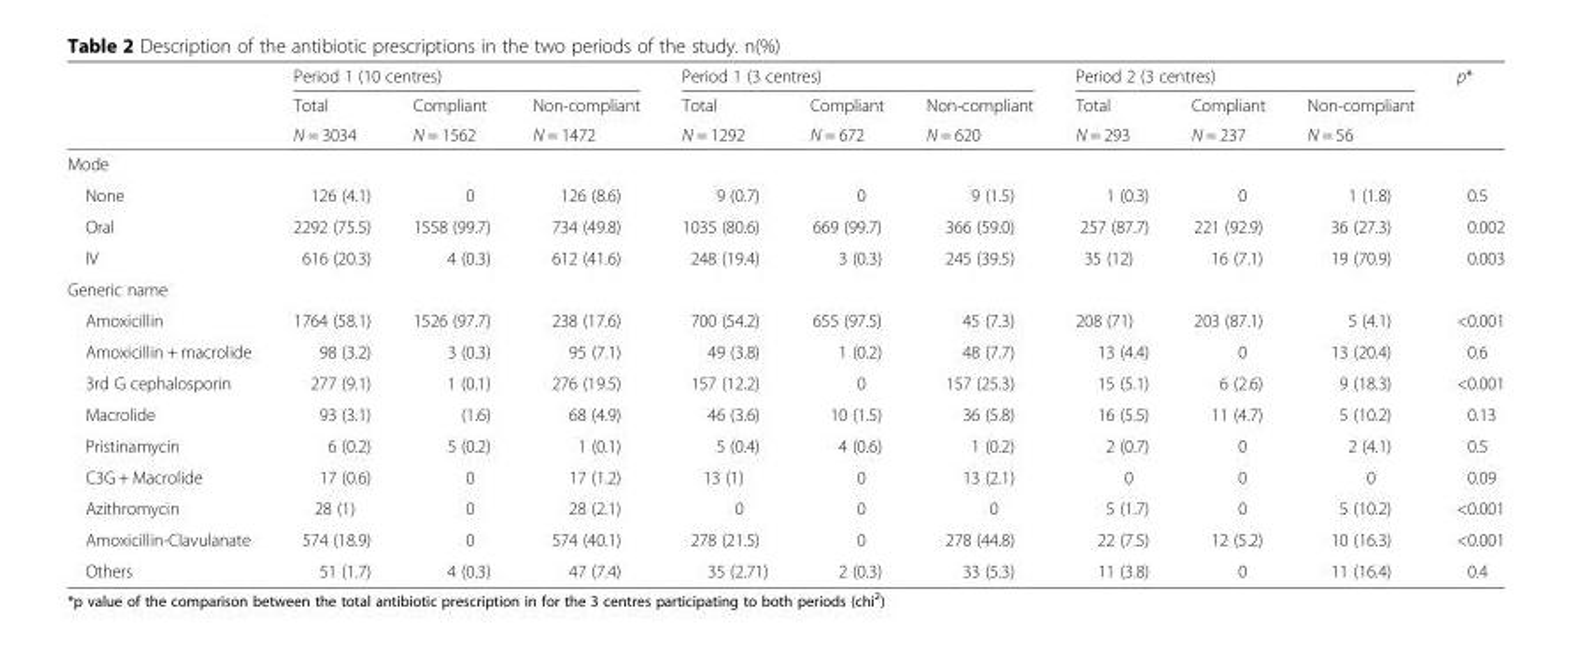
<table><thead><tr><td rowspan="3"></td><td colspan="3">Period 1 (10 centres)</td><td colspan="3">Period 1 (3 centres)</td><td colspan="3">Period 2 (3 centres)</td><td rowspan="3">p*</td></tr><tr><td rowspan="2">Total N = 3034</td><td rowspan="2">Compliant N = 1562</td><td rowspan="2">Non-compliant N = 1472</td><td rowspan="2">Total N = 1292</td><td rowspan="2">Compliant N = 672</td><td rowspan="2">Non-compliant N = 620</td><td rowspan="2">Total N = 293</td><td rowspan="2">Compliant N = 237</td><td rowspan="2">Non-compliant N = 56</td></tr><tr></tr></thead><tbody><tr><td colspan="11">Mode</td></tr><tr><td>None</td><td>126 (4.1)</td><td>0</td><td>126 (8.6)</td><td>9 (0.7)</td><td>0</td><td>9 (1.5)</td><td>1 (0.3)</td><td>0</td><td>1 (1.8)</td><td>0.5</td></tr><tr><td>Oral</td><td>2292 (75.5)</td><td>1558 (99.7)</td><td>734 (49.8)</td><td>1035 (80.6)</td><td>669 (99.7)</td><td>366 (59.0)</td><td>257 (87.7)</td><td>221 (92.9)</td><td>36 (27.3)</td><td>0.002</td></tr><tr><td>IV</td><td>616 (20.3)</td><td>4 (0.3)</td><td>612 (41.6)</td><td>248 (19.4)</td><td>3 (0.3)</td><td>245 (39.5)</td><td>35 (12)</td><td>16 (7.1)</td><td>19 (70.9)</td><td>0.003</td></tr><tr><td colspan="11">Generic name</td></tr><tr><td>Amoxicillin</td><td>1764 (58.1)</td><td>1526 (97.7)</td><td>238 (17.6)</td><td>700 (54.2)</td><td>655 (97.5)</td><td>45 (7.3)</td><td>208 (71)</td><td>203 (87.1)</td><td>5 (4.1)</td><td>&lt;0.001</td></tr><tr><td>Amoxicillin + macrolide</td><td>98 (3.2)</td><td>3 (0.3)</td><td>95 (7.1)</td><td>49 (3.8)</td><td>1 (0.2)</td><td>48 (7.7)</td><td>13 (4.4)</td><td>0</td><td>13 (20.4)</td><td>0.6</td></tr><tr><td>3rd G cephalosporin</td><td>277 (9.1)</td><td>1 (0.1)</td><td>276 (19.5)</td><td>157 (12.2)</td><td>0</td><td>157 (25.3)</td><td>15 (5.1)</td><td>6 (2.6)</td><td>9 (18.3)</td><td>&lt;0.001</td></tr><tr><td>Macrolide</td><td>93 (3.1)</td><td>(1.6)</td><td>68 (4.9)</td><td>46 (3.6)</td><td>10 (1.5)</td><td>36 (5.8)</td><td>16 (5.5)</td><td>11 (4.7)</td><td>5 (10.2)</td><td>0.13</td></tr><tr><td>Pristinamycin</td><td>6 (0.2)</td><td>5 (0.2)</td><td>1 (0.1)</td><td>5 (0.4)</td><td>4 (0.6)</td><td>1 (0.2)</td><td>2 (0.7)</td><td>0</td><td>2 (4.1)</td><td>0.5</td></tr><tr><td>C3G + Macrolide</td><td>17 (0.6)</td><td>0</td><td>17 (1.2)</td><td>13 (1)</td><td>0</td><td>13 (2.1)</td><td>0</td><td>0</td><td>0</td><td>0.09</td></tr><tr><td>Azithromycin</td><td>28 (1)</td><td>0</td><td>28 (2.1)</td><td>0</td><td>0</td><td>0</td><td>5 (1.7)</td><td>0</td><td>5 (10.2)</td><td>&lt;0.001</td></tr><tr><td>Amoxicillin-Clavulanate</td><td>574 (18.9)</td><td>0</td><td>574 (40.1)</td><td>278 (21.5)</td><td>0</td><td>278 (44.8)</td><td>22 (7.5)</td><td>12 (5.2)</td><td>10 (16.3)</td><td>&lt;0.001</td></tr><tr><td>Others</td><td>51 (1.7)</td><td>4 (0.3)</td><td>47 (7.4)</td><td>35 (2.71)</td><td>2 (0.3)</td><td>33 (5.3)</td><td>11 (3.8)</td><td>0</td><td>11 (16.4)</td><td>0.4</td></tr></tbody></table>